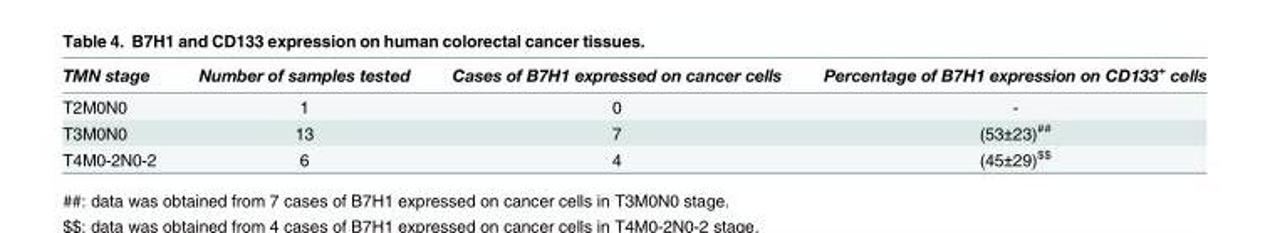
<table><thead><tr><td>TMN stage</td><td>Number of samples tested</td><td>Cases of B7H1 expressed on cancer cells</td><td>Percentage of B7H1 expression on CD133<sup>+</sup> cells</td></tr></thead><tbody><tr><td>T2M0N0</td><td>1</td><td>0</td><td>-</td></tr><tr><td>T3M0N0</td><td>13</td><td>7</td><td>(53±23)<sup>##</sup></td></tr><tr><td>T4M0-2N0-2</td><td>6</td><td>4</td><td>(45±29)<sup>$$</sup></td></tr></tbody></table>